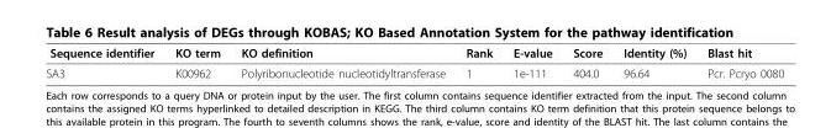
<table><thead><tr><td>Sequence identifier</td><td>KO term</td><td>KO definition</td><td>Rank</td><td>E-value</td><td>Score</td><td>Identity (%)</td><td>Blast hit</td></tr></thead><tbody><tr><td>SA3</td><td>K00962</td><td>Polyribonucleotide nucleotidyltransferase</td><td>1</td><td>1e-111</td><td>404.0</td><td>96.64</td><td>Pcr. Pcryo 0080</td></tr></tbody></table>